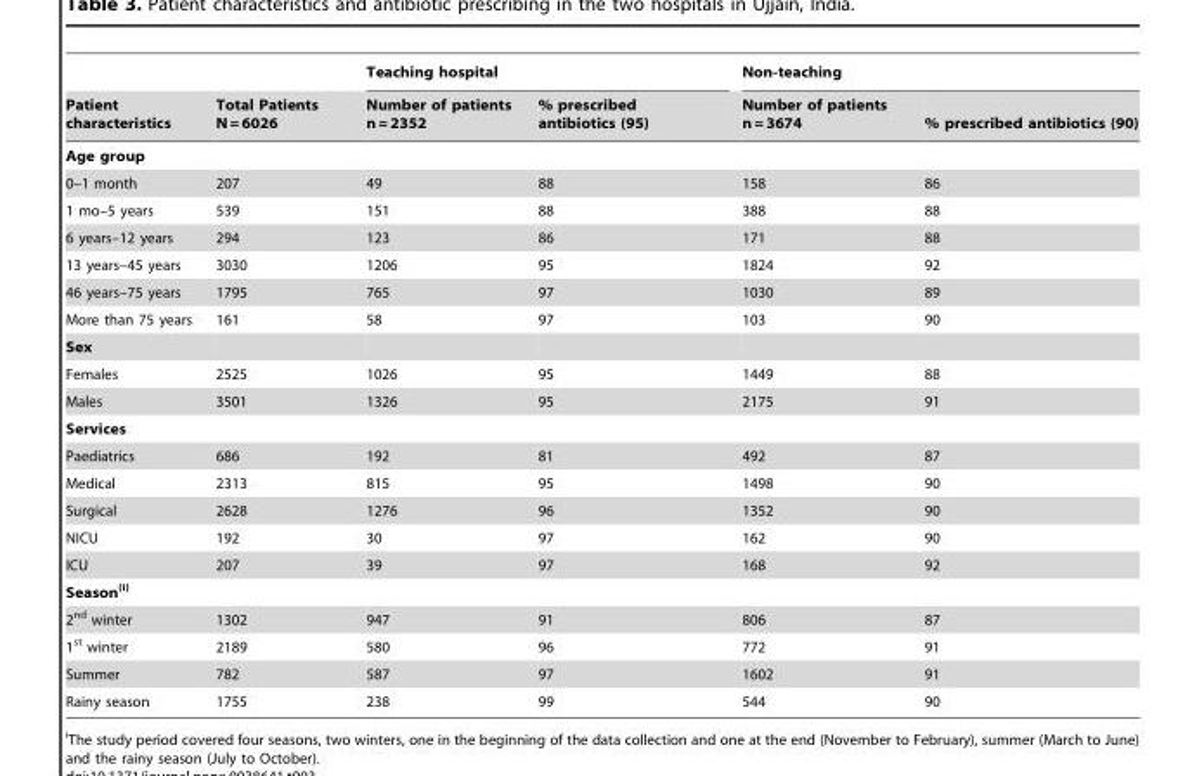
<table><thead><tr><td rowspan="2">Patient characteristics</td><td rowspan="2">Total Patients N = 6026</td><td colspan="2">Teaching hospital</td><td colspan="2">Non-teaching</td></tr><tr><td>Number of patients n = 2352</td><td>% prescribed antibiotics (95)</td><td>Number of patients n = 3674</td><td>% prescribed antibiotics (90)</td></tr></thead><tbody><tr><td colspan="6">Age group</td></tr><tr><td>0–1 month</td><td>207</td><td>49</td><td>88</td><td>158</td><td>86</td></tr><tr><td>1 mo–5 years</td><td>539</td><td>151</td><td>88</td><td>388</td><td>88</td></tr><tr><td>6 years–12 years</td><td>294</td><td>123</td><td>86</td><td>171</td><td>88</td></tr><tr><td>13 years–45 years</td><td>3030</td><td>1206</td><td>95</td><td>1824</td><td>92</td></tr><tr><td>46 years–75 years</td><td>1795</td><td>765</td><td>97</td><td>1030</td><td>89</td></tr><tr><td>More than 75 years</td><td>161</td><td>58</td><td>97</td><td>103</td><td>90</td></tr><tr><td colspan="6">Sex</td></tr><tr><td>Females</td><td>2525</td><td>1026</td><td>95</td><td>1449</td><td>88</td></tr><tr><td>Males</td><td>3501</td><td>1326</td><td>95</td><td>2175</td><td>91</td></tr><tr><td colspan="6">Services</td></tr><tr><td>Paediatrics</td><td>686</td><td>192</td><td>81</td><td>492</td><td>87</td></tr><tr><td>Medical</td><td>2313</td><td>815</td><td>95</td><td>1498</td><td>90</td></tr><tr><td>Surgical</td><td>2628</td><td>1276</td><td>96</td><td>1352</td><td>90</td></tr><tr><td>NICU</td><td>192</td><td>30</td><td>97</td><td>162</td><td>90</td></tr><tr><td>ICU</td><td>207</td><td>39</td><td>97</td><td>168</td><td>92</td></tr><tr><td colspan="6">Season<sup>(i)</sup></td></tr><tr><td>2<sup>nd</sup> winter</td><td>1302</td><td>947</td><td>91</td><td>806</td><td>87</td></tr><tr><td>1<sup>st</sup> winter</td><td>2189</td><td>580</td><td>96</td><td>772</td><td>91</td></tr><tr><td>Summer</td><td>782</td><td>587</td><td>97</td><td>1602</td><td>91</td></tr><tr><td>Rainy season</td><td>1755</td><td>238</td><td>99</td><td>544</td><td>90</td></tr></tbody></table>